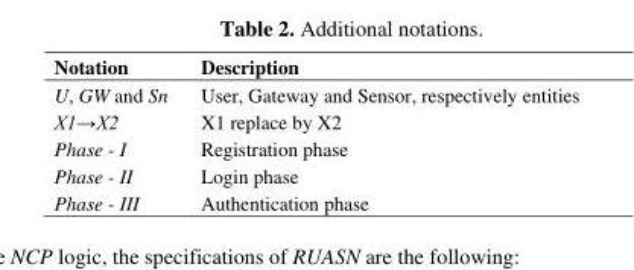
<table><thead><tr><td>Notation</td><td>Description</td></tr></thead><tbody><tr><td>U, GW and Sn</td><td>User, Gateway and Sensor, respectively entities</td></tr><tr><td>X1→X2</td><td>X1 replace by X2</td></tr><tr><td>Phase - I</td><td>Registration phase</td></tr><tr><td>Phase - II</td><td>Login phase</td></tr><tr><td>Phase - III</td><td>Authentication phase</td></tr></tbody></table>